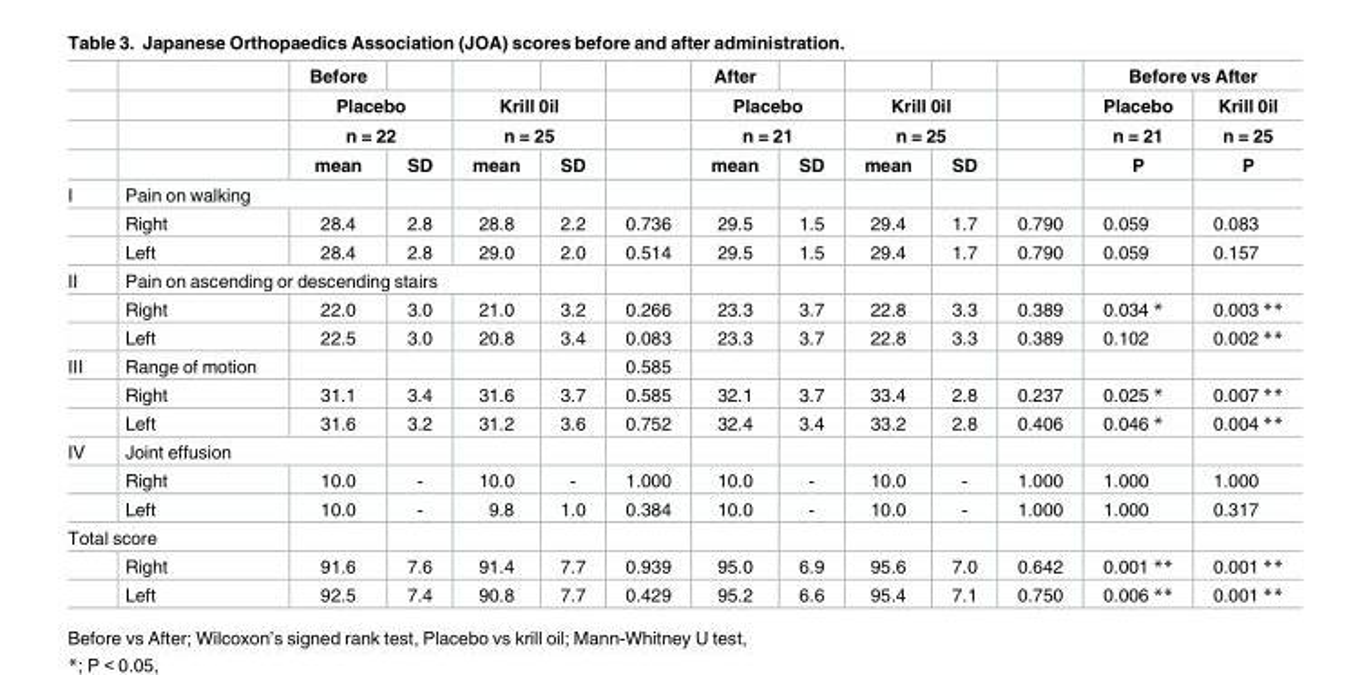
<table><thead><tr><td rowspan="4"></td><td rowspan="4"></td><td>Before</td><td></td><td></td><td></td><td rowspan="4"></td><td>After</td><td></td><td></td><td></td><td rowspan="4"></td><td colspan="2">Before vs After</td></tr><tr><td rowspan="2" colspan="2">Placebo n = 22</td><td rowspan="2" colspan="2">Krill 0il n = 25</td><td rowspan="2" colspan="2">Placebo n = 21</td><td rowspan="2" colspan="2">Krill 0il n = 25</td><td rowspan="3">Placebo n = 21 P</td><td rowspan="3">Krill 0il n = 25 P</td></tr><tr></tr><tr><td>mean</td><td>SD</td><td>mean</td><td>SD</td><td>mean</td><td>SD</td><td>mean</td><td>SD</td></tr></thead><tbody><tr><td rowspan="3">I</td><td colspan="2">Pain on walking</td><td></td><td></td><td></td><td></td><td></td><td></td><td></td><td></td><td></td><td></td><td></td></tr><tr><td>Right</td><td>28.4</td><td>2.8</td><td>28.8</td><td>2.2</td><td>0.736</td><td>29.5</td><td>1.5</td><td>29.4</td><td>1.7</td><td>0.790</td><td>0.059</td><td>0.083</td></tr><tr><td>Left</td><td>28.4</td><td>2.8</td><td>29.0</td><td>2.0</td><td>0.514</td><td>29.5</td><td>1.5</td><td>29.4</td><td>1.7</td><td>0.790</td><td>0.059</td><td>0.157</td></tr><tr><td rowspan="3">II</td><td colspan="4">Pain on ascending or descending stairs</td><td></td><td></td><td></td><td></td><td></td><td></td><td></td><td></td><td></td></tr><tr><td>Right</td><td>22.0</td><td>3.0</td><td>21.0</td><td>3.2</td><td>0.266</td><td>23.3</td><td>3.7</td><td>22.8</td><td>3.3</td><td>0.389</td><td>0.034 *</td><td>0.003 **</td></tr><tr><td>Left</td><td>22.5</td><td>3.0</td><td>20.8</td><td>3.4</td><td>0.083</td><td>23.3</td><td>3.7</td><td>22.8</td><td>3.3</td><td>0.389</td><td>0.102</td><td>0.002 **</td></tr><tr><td rowspan="3">III</td><td>Range of motion</td><td></td><td></td><td></td><td></td><td>0.585</td><td></td><td></td><td></td><td></td><td></td><td></td><td></td></tr><tr><td>Right</td><td>31.1</td><td>3.4</td><td>31.6</td><td>3.7</td><td>0.585</td><td>32.1</td><td>3.7</td><td>33.4</td><td>2.8</td><td>0.237</td><td>0.025 *</td><td>0.007 **</td></tr><tr><td>Left</td><td>31.6</td><td>3.2</td><td>31.2</td><td>3.6</td><td>0.752</td><td>32.4</td><td>3.4</td><td>33.2</td><td>2.8</td><td>0.406</td><td>0.046 *</td><td>0.004 **</td></tr><tr><td rowspan="3">IV</td><td colspan="2">Joint effusion</td><td></td><td></td><td></td><td></td><td></td><td></td><td></td><td></td><td></td><td></td><td></td></tr><tr><td>Right</td><td>10.0</td><td>-</td><td>10.0</td><td>-</td><td>1.000</td><td>10.0</td><td>-</td><td>10.0</td><td>-</td><td>1.000</td><td>1.000</td><td>1.000</td></tr><tr><td>Left</td><td>10.0</td><td>-</td><td>9.8</td><td>1.0</td><td>0.384</td><td>10.0</td><td>-</td><td>10.0</td><td>-</td><td>1.000</td><td>1.000</td><td>0.317</td></tr><tr><td colspan="14">Total score</td></tr><tr><td></td><td>Right</td><td>91.6</td><td>7.6</td><td>91.4</td><td>7.7</td><td>0.939</td><td>95.0</td><td>6.9</td><td>95.6</td><td>7.0</td><td>0.642</td><td>0.001 **</td><td>0.001 **</td></tr><tr><td></td><td>Left</td><td>92.5</td><td>7.4</td><td>90.8</td><td>7.7</td><td>0.429</td><td>95.2</td><td>6.6</td><td>95.4</td><td>7.1</td><td>0.750</td><td>0.006 **</td><td>0.001 **</td></tr></tbody></table>